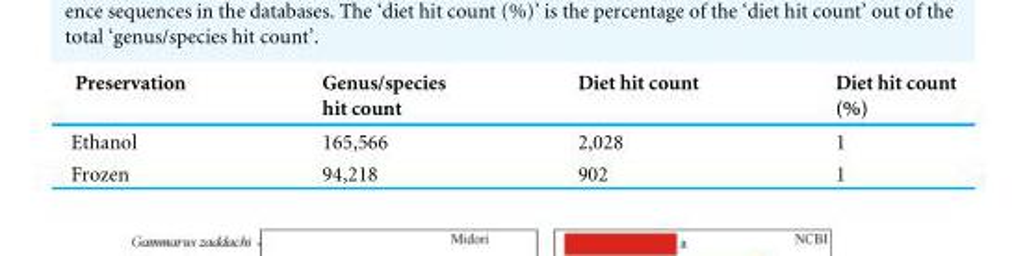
<table><thead><tr><td>Preservation</td><td>Genus/species hit count</td><td>Diet hit count</td><td>Diet hit count (%)</td></tr></thead><tbody><tr><td>Ethanol</td><td>165,566</td><td>2,028</td><td>1</td></tr><tr><td>Frozen</td><td>94,218</td><td>902</td><td>1</td></tr></tbody></table>